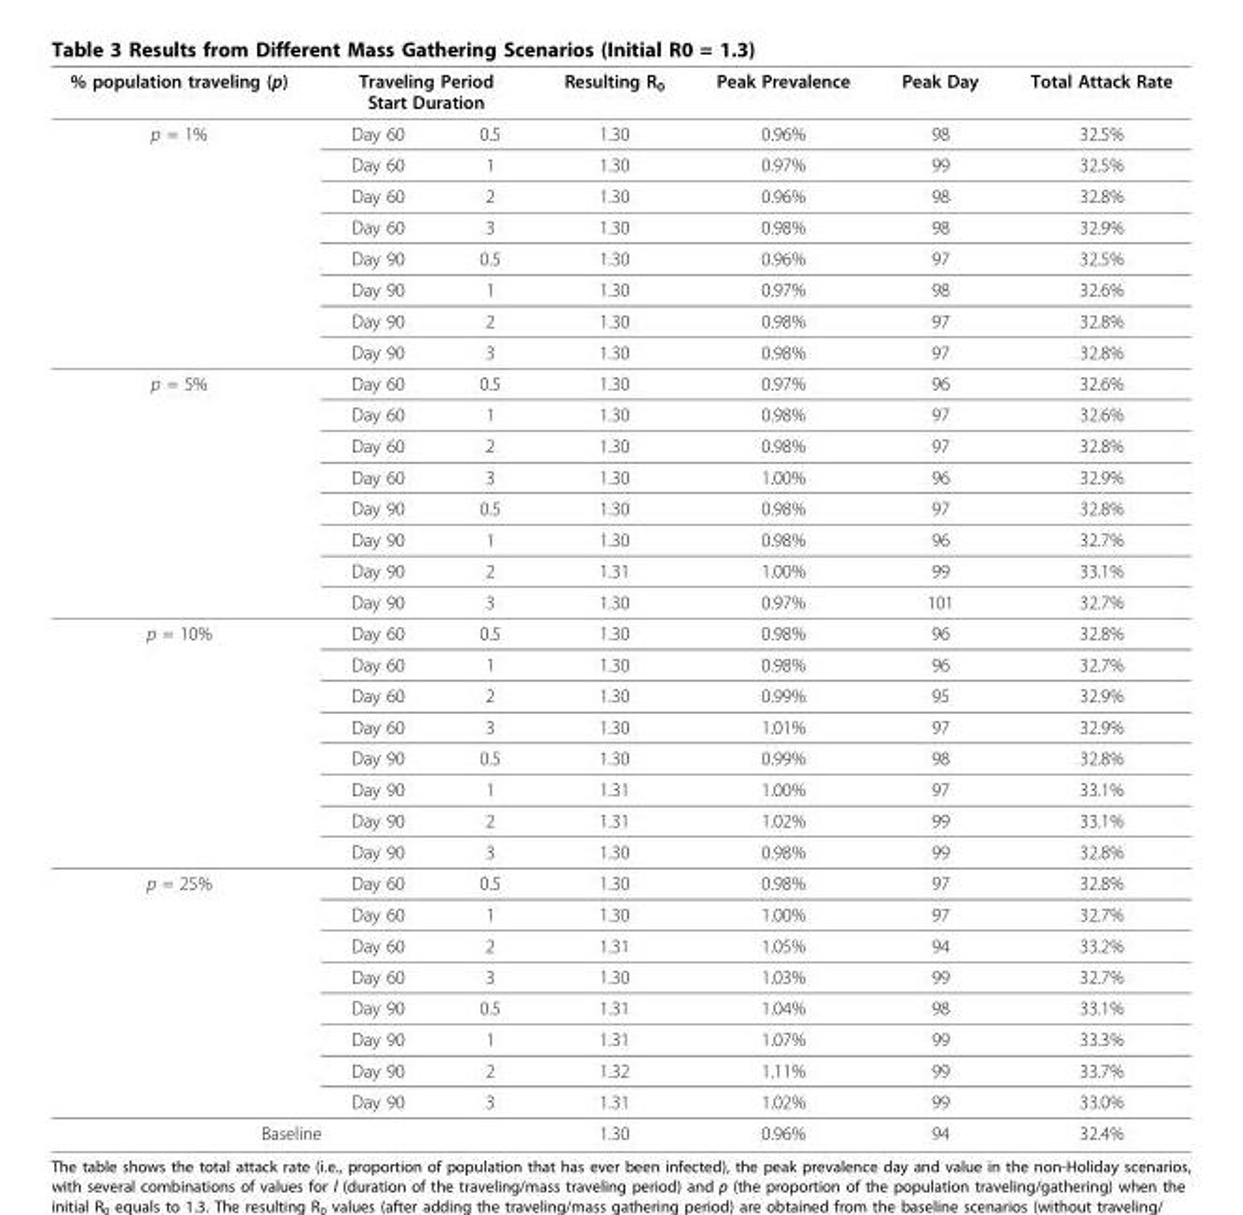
<table><thead><tr><td rowspan="2">% population traveling (p) p = 1%</td><td colspan="2">Traveling Period Start Duration</td><td rowspan="2">Resulting R0 1.30</td><td rowspan="2">Peak Prevalence 0.96%</td><td rowspan="2">Peak Day 98</td><td rowspan="2">Total Attack Rate 32.5%</td></tr><tr><td>Day 60</td><td>0.5</td></tr></thead><tbody><tr><td></td><td>Day 60</td><td>1</td><td>1.30</td><td>0.97%</td><td>99</td><td>32.5%</td></tr><tr><td></td><td>Day 60</td><td>2</td><td>1.30</td><td>0.96%</td><td>98</td><td>32.8%</td></tr><tr><td></td><td>Day 60</td><td>3</td><td>1.30</td><td>0.98%</td><td>98</td><td>32.9%</td></tr><tr><td></td><td>Day 90</td><td>0.5</td><td>1.30</td><td>0.96%</td><td>97</td><td>32.5%</td></tr><tr><td></td><td>Day 90</td><td>1</td><td>1.30</td><td>0.97%</td><td>98</td><td>32.6%</td></tr><tr><td></td><td>Day 90</td><td>2</td><td>1.30</td><td>0.98%</td><td>97</td><td>32.8%</td></tr><tr><td></td><td>Day 90</td><td>3</td><td>1.30</td><td>0.98%</td><td>97</td><td>32.8%</td></tr><tr><td rowspan="8">p = 5%</td><td>Day 60</td><td>0.5</td><td>1.30</td><td>0.97%</td><td>96</td><td>32.6%</td></tr><tr><td>Day 60</td><td>1</td><td>1.30</td><td>0.98%</td><td>97</td><td>32.6%</td></tr><tr><td>Day 60</td><td>2</td><td>1.30</td><td>0.98%</td><td>97</td><td>32.8%</td></tr><tr><td>Day 60</td><td>3</td><td>1.30</td><td>1.00%</td><td>96</td><td>32.9%</td></tr><tr><td>Day 90</td><td>0.5</td><td>1.30</td><td>0.98%</td><td>97</td><td>32.8%</td></tr><tr><td>Day 90</td><td>1</td><td>1.30</td><td>0.98%</td><td>96</td><td>32.7%</td></tr><tr><td>Day 90</td><td>2</td><td>1.31</td><td>1.00%</td><td>99</td><td>33.1%</td></tr><tr><td>Day 90</td><td>3</td><td>1.30</td><td>0.97%</td><td>101</td><td>32.7%</td></tr><tr><td rowspan="8">p = 10%</td><td>Day 60</td><td>0.5</td><td>1.30</td><td>0.98%</td><td>96</td><td>32.8%</td></tr><tr><td>Day 60</td><td>1</td><td>1.30</td><td>0.98%</td><td>96</td><td>32.7%</td></tr><tr><td>Day 60</td><td>2</td><td>1.30</td><td>0.99%</td><td>95</td><td>32.9%</td></tr><tr><td>Day 60</td><td>3</td><td>1.30</td><td>1.01%</td><td>97</td><td>32.9%</td></tr><tr><td>Day 90</td><td>0.5</td><td>1.30</td><td>0.99%</td><td>98</td><td>32.8%</td></tr><tr><td>Day 90</td><td>1</td><td>1.31</td><td>1.00%</td><td>97</td><td>33.1%</td></tr><tr><td>Day 90</td><td>2</td><td>1.31</td><td>1.02%</td><td>99</td><td>33.1%</td></tr><tr><td>Day 90</td><td>3</td><td>1.30</td><td>0.98%</td><td>99</td><td>32.8%</td></tr><tr><td rowspan="8">p = 25%</td><td>Day 60</td><td>0.5</td><td>1.30</td><td>0.98%</td><td>97</td><td>32.8%</td></tr><tr><td>Day 60</td><td>1</td><td>1.30</td><td>1.00%</td><td>97</td><td>32.7%</td></tr><tr><td>Day 60</td><td>2</td><td>1.31</td><td>1.05%</td><td>94</td><td>33.2%</td></tr><tr><td>Day 60</td><td>3</td><td>1.30</td><td>1.03%</td><td>99</td><td>32.7%</td></tr><tr><td>Day 90</td><td>0.5</td><td>1.31</td><td>1.04%</td><td>98</td><td>33.1%</td></tr><tr><td>Day 90</td><td>1</td><td>1.31</td><td>1.07%</td><td>99</td><td>33.3%</td></tr><tr><td>Day 90</td><td>2</td><td>1.32</td><td>1.11%</td><td>99</td><td>33.7%</td></tr><tr><td>Day 90</td><td>3</td><td>1.31</td><td>1.02%</td><td>99</td><td>33.0%</td></tr><tr><td colspan="3">Baseline</td><td>1.30</td><td>0.96%</td><td>94</td><td>32.4%</td></tr></tbody></table>